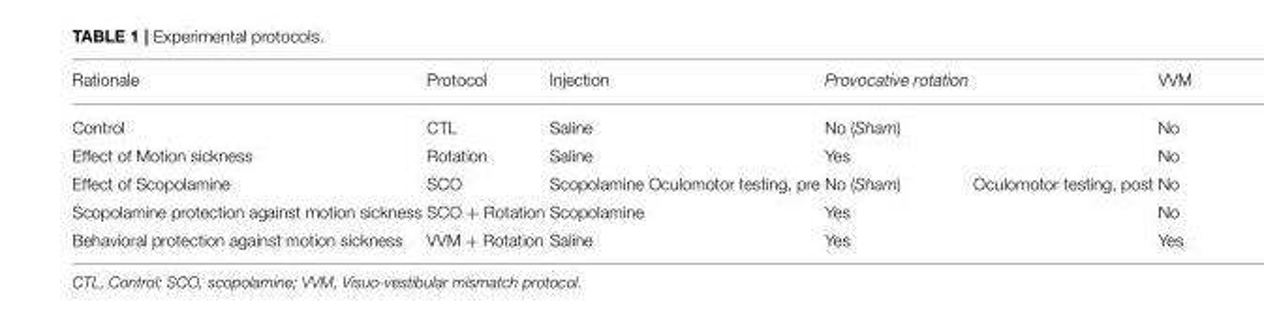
<table><thead><tr><td>Rationale</td><td>Protocol</td><td>Injection</td><td></td><td>Provocative rotation</td><td></td><td>VVM</td></tr></thead><tbody><tr><td>Control</td><td>CTL</td><td>Saline</td><td></td><td>No (Sham)</td><td></td><td>No</td></tr><tr><td>Effect of Motion sickness</td><td>Rotation</td><td>Saline</td><td></td><td>Yes</td><td></td><td>No</td></tr><tr><td>Effect of Scopolamine</td><td>SCO</td><td>Scopolamine</td><td>Oculomotor testing, pre</td><td>No (Sham)</td><td>Oculomotor testing, post</td><td>No</td></tr><tr><td>Scopolamine protection against motion sickness</td><td>SCO + Rotation</td><td>Scopolamine</td><td></td><td>Yes</td><td></td><td>No</td></tr><tr><td>Behavioral protection against motion sickness</td><td>VVM + Rotation</td><td>Saline</td><td></td><td>Yes</td><td></td><td>Yes</td></tr></tbody></table>